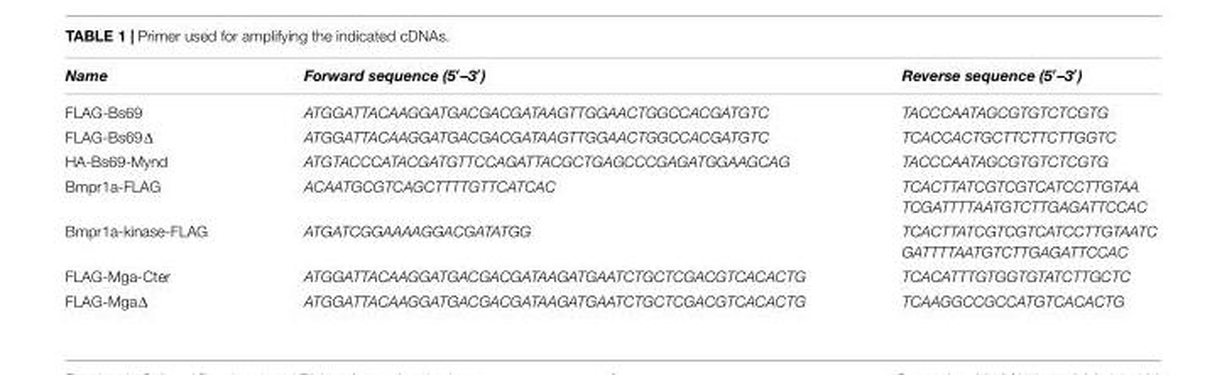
<table><thead><tr><td>Name</td><td>Forward sequence (5′–3′)</td><td>Reverse sequence (5′–3′)</td></tr></thead><tbody><tr><td>FLAG-Bs69</td><td>ATGGATTACAAGGATGACGACGATAAGTTGGAACTGGCCACGATGTC</td><td>TACCCAATAGCGTGTCTCGTG</td></tr><tr><td>FLAG-Bs69Δ</td><td>ATGGATTACAAGGATGACGACGATAAGTTGGAACTGGCCACGATGTC</td><td>TCACCACTGCTTCTTCTTGGTC</td></tr><tr><td>HA-Bs69-Mynd</td><td>ATGTACCCATACGATGTTCCAGATTACGCTGAGCCCGAGATGGAAGCAG</td><td>TACCCAATAGCGTGTCTCGTG</td></tr><tr><td>Bmpr1a-FLAG</td><td>ACAATGCGTCAGCTTTTGTTCATCAC</td><td>TCACTTATCGTCGTCATCCTTGTAA TCGATTTTAATGTCTTGAGATTCCAC</td></tr><tr><td>Bmpr1a-kinase-FLAG</td><td>ATGATCGGAAAAGGACGATATGG</td><td>TCACTTATCGTCGTCATCCTTGTAATC GATTTTAATGTCTTGAGATTCCAC</td></tr><tr><td>FLAG-Mga-Cter</td><td>ATGGATTACAAGGATGACGACGATAAGATGAATCTGCTCGACGTCACACTG</td><td>TCACATTTGTGGTGTATCTTGCTC</td></tr><tr><td>FLAG-MgaΔ</td><td>ATGGATTACAAGGATGACGACGATAAGATGAATCTGCTCGACGTCACACTG</td><td>TCAAGGCCGCCATGTCACACTG</td></tr></tbody></table>